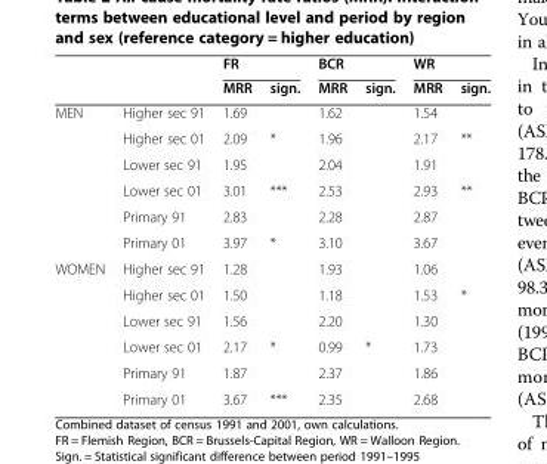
<table><thead><tr><td rowspan="2"></td><td rowspan="2"></td><td colspan="2">FR</td><td colspan="2">BCR</td><td colspan="2">WR</td></tr><tr><td>MRR</td><td>sign.</td><td>MRR</td><td>sign.</td><td>MRR</td><td>sign.</td></tr></thead><tbody><tr><td rowspan="6">MEN</td><td>Higher sec 91</td><td>1.69</td><td></td><td>1.62</td><td></td><td>1.54</td><td></td></tr><tr><td>Higher sec 01</td><td>2.09</td><td>*</td><td>1.96</td><td></td><td>2.17</td><td>**</td></tr><tr><td>Lower sec 91</td><td>1.95</td><td></td><td>2.04</td><td></td><td>1.91</td><td></td></tr><tr><td>Lower sec 01</td><td>3.01</td><td>***</td><td>2.53</td><td></td><td>2.93</td><td>**</td></tr><tr><td>Primary 91</td><td>2.83</td><td></td><td>2.28</td><td></td><td>2.87</td><td></td></tr><tr><td>Primary 01</td><td>3.97</td><td>*</td><td>3.10</td><td></td><td>3.67</td><td></td></tr><tr><td rowspan="6">WOMEN</td><td>Higher sec 91</td><td>1.28</td><td></td><td>1.93</td><td></td><td>1.06</td><td></td></tr><tr><td>Higher sec 01</td><td>1.50</td><td></td><td>1.18</td><td></td><td>1.53</td><td>*</td></tr><tr><td>Lower sec 91</td><td>1.56</td><td></td><td>2.20</td><td></td><td>1.30</td><td></td></tr><tr><td>Lower sec 01</td><td>2.17</td><td>*</td><td>0.99</td><td>*</td><td>1.73</td><td></td></tr><tr><td>Primary 91</td><td>1.87</td><td></td><td>2.37</td><td></td><td>1.86</td><td></td></tr><tr><td>Primary 01</td><td>3.67</td><td>***</td><td>2.35</td><td></td><td>2.68</td><td></td></tr></tbody></table>